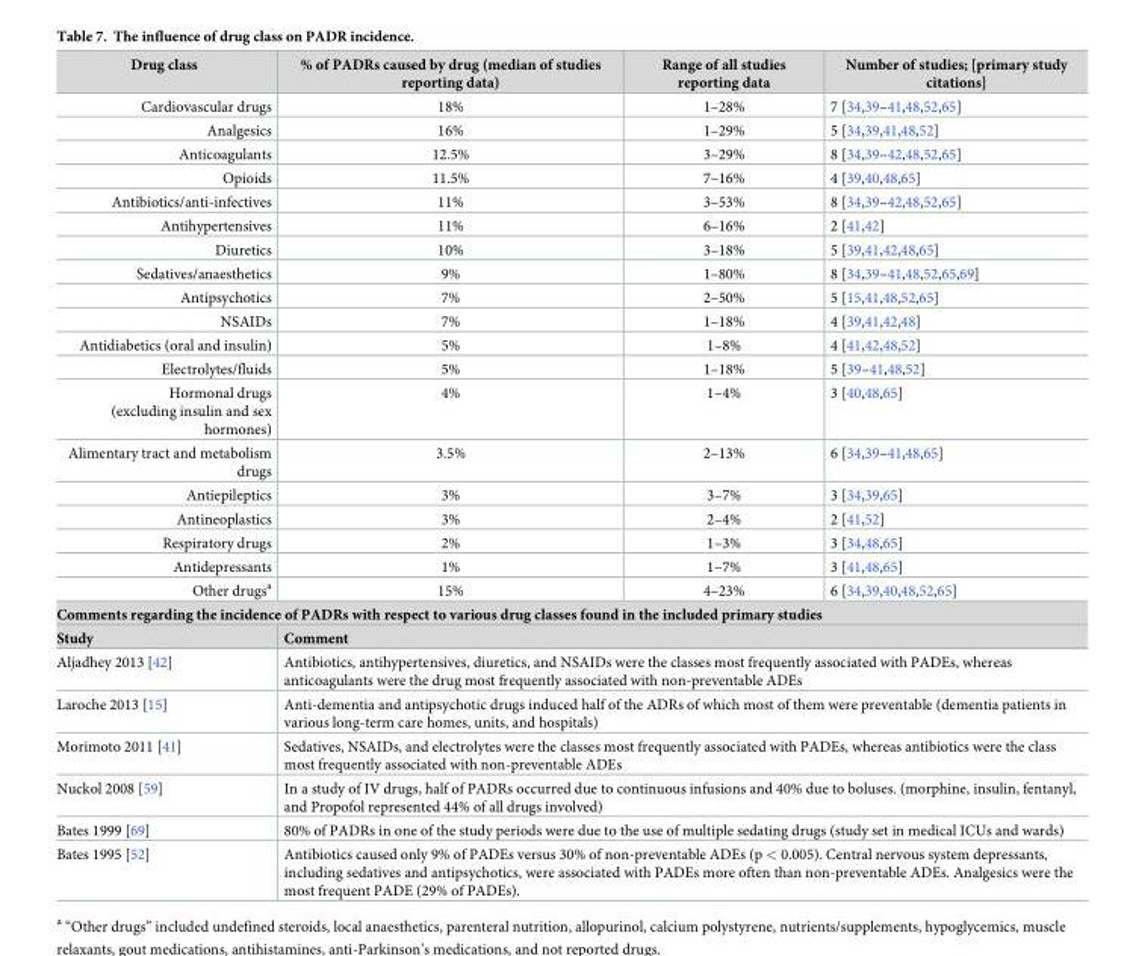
<table><tbody><tr><td>Drug class</td><td>% of PADRs caused by drug (median of studies reporting data)</td><td>Range of all studies reporting data</td><td>Number of studies; [primary study citations]</td></tr><tr><td>Cardiovascular drugs</td><td>18%</td><td>1–28%</td><td>7 [34,39–41,48,52,65]</td></tr><tr><td>Analgesics</td><td>16%</td><td>1–29%</td><td>5 [34,39,41,48,52]</td></tr><tr><td>Anticoagulants</td><td>12.5%</td><td>3–29%</td><td>8 [34,39–42,48,52,65]</td></tr><tr><td>Opioids</td><td>11.5%</td><td>7–16%</td><td>4 [39,40,48,65]</td></tr><tr><td>Antibiotics/anti-infectives</td><td>11%</td><td>3–53%</td><td>8 [34,39–42,48,52,65]</td></tr><tr><td>Antihypertensives</td><td>11%</td><td>6–16%</td><td>2 [41,42]</td></tr><tr><td>Diuretics</td><td>10%</td><td>3–18%</td><td>5 [39,41,42,48,65]</td></tr><tr><td>Sedatives/anaesthetics</td><td>9%</td><td>1–80%</td><td>8 [34,39–41,48,52,65,69]</td></tr><tr><td>Antipsychotics</td><td>7%</td><td>2–50%</td><td>5 [15,41,48,52,65]</td></tr><tr><td>NSAIDs</td><td>7%</td><td>1–18%</td><td>4 [39,41,42,48]</td></tr><tr><td>Antidiabetics (oral and insulin)</td><td>5%</td><td>1–8%</td><td>4 [41,42,48,52]</td></tr><tr><td>Electrolytes/fluids</td><td>5%</td><td>1–18%</td><td>5 [39–41,48,52]</td></tr><tr><td>Hormonal drugs (excluding insulin and sex hormones)</td><td>4%</td><td>1–4%</td><td>3 [40,48,65]</td></tr><tr><td>Alimentary tract and metabolism drugs</td><td>3.5%</td><td>2–13%</td><td>6 [34,39–41,48,65]</td></tr><tr><td>Antiepileptics</td><td>3%</td><td>3–7%</td><td>3 [34,39,65]</td></tr><tr><td>Antineoplastics</td><td>3%</td><td>2–4%</td><td>2 [41,52]</td></tr><tr><td>Respiratory drugs</td><td>2%</td><td>1–3%</td><td>3 [34,48,65]</td></tr><tr><td>Antidepressants</td><td>1%</td><td>1–7%</td><td>3 [41,48,65]</td></tr><tr><td>Other drugs<sup>a</sup></td><td>15%</td><td>4–23%</td><td>6 [34,39,40,48,52,65]</td></tr><tr><td colspan="4">Comments regarding the incidence of PADRs with respect to various drug classes found in the included primary studies</td></tr><tr><td>Study</td><td colspan="3">Comment</td></tr><tr><td>Aljadhey 2013 [42]</td><td colspan="3">Antibiotics, antihypertensives, diuretics, and NSAIDs were the classes most frequently associated with PADEs, whereas anticoagulants were the drug most frequently associated with non-preventable ADEs</td></tr><tr><td>Laroche 2013 [15]</td><td colspan="3">Anti-dementia and antipsychotic drugs induced half of the ADRs of which most of them were preventable (dementia patients in various long-term care homes, units, and hospitals)</td></tr><tr><td>Morimoto 2011 [41]</td><td colspan="3">Sedatives, NSAIDs, and electrolytes were the classes most frequently associated with PADEs, whereas antibiotics were the class most frequently associated with non-preventable ADEs</td></tr><tr><td>Nuckol 2008 [59]</td><td colspan="3">In a study of IV drugs, half of PADRs occurred due to continuous infusions and 40% due to boluses. (morphine, insulin, fentanyl, and Propofol represented 44% of all drugs involved)</td></tr><tr><td>Bates 1999 [69]</td><td colspan="3">80% of PADRs in one of the study periods were due to the use of multiple sedating drugs (study set in medical ICUs and wards)</td></tr><tr><td>Bates 1995 [52]</td><td colspan="3">Antibiotics caused only 9% of PADEs versus 30% of non-preventable ADEs (p &lt; 0.005). Central nervous system depressants, including sedatives and antipsychotics, were associated with PADEs more often than non-preventable ADEs. Analgesics were the most frequent PADE (29% of PADEs).</td></tr></tbody></table>